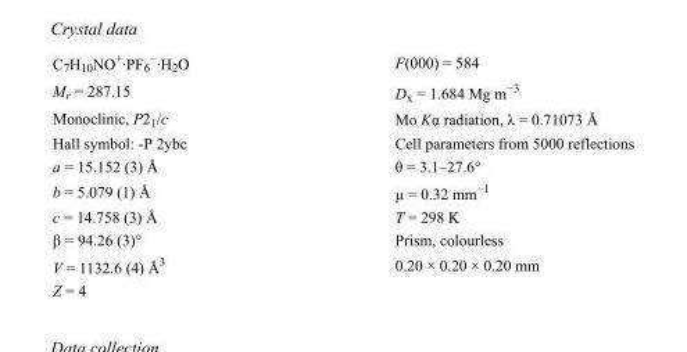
<table><tbody><tr><td>C<sub>7</sub>H<sub>10</sub>NO<sup>+</sup>·PF<sub>6</sub> <sup>−</sup>·H<sub>2</sub>O</td><td>F(000) = 584</td></tr><tr><td>M<sub>r</sub> = 287.15</td><td>D<sub>x</sub> = 1.684 Mg m<sup>−3</sup></td></tr><tr><td>Monoclinic, P2<sub>1</sub>/c</td><td>Mo Kα radiation, λ = 0.71073 Å</td></tr><tr><td>Hall symbol: -P 2ybc</td><td>Cell parameters from 5000 reflections</td></tr><tr><td>a = 15.152 (3) Å</td><td>θ = 3.1–27.6°</td></tr><tr><td>b = 5.079 (1) Å</td><td>µ = 0.32 mm<sup>−1</sup></td></tr><tr><td>c = 14.758 (3) Å</td><td>T = 298 K</td></tr><tr><td>β = 94.26 (3)°</td><td>Prism, colourless</td></tr><tr><td>V = 1132.6 (4) Å<sup>3</sup></td><td>0.20 × 0.20 × 0.20 mm</td></tr><tr><td>Z = 4</td><td></td></tr></tbody></table>